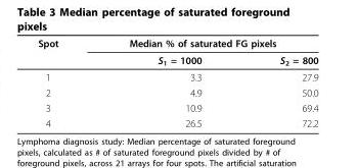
<table><thead><tr><td rowspan="2">Spot</td><td colspan="2">Median % of saturated FG pixels</td></tr><tr><td>S<sub>1</sub> = 1000</td><td>S<sub>2</sub> = 800</td></tr></thead><tbody><tr><td>1</td><td>3.3</td><td>27.9</td></tr><tr><td>2</td><td>4.9</td><td>50.0</td></tr><tr><td>3</td><td>10.9</td><td>69.4</td></tr><tr><td>4</td><td>26.5</td><td>72.2</td></tr></tbody></table>